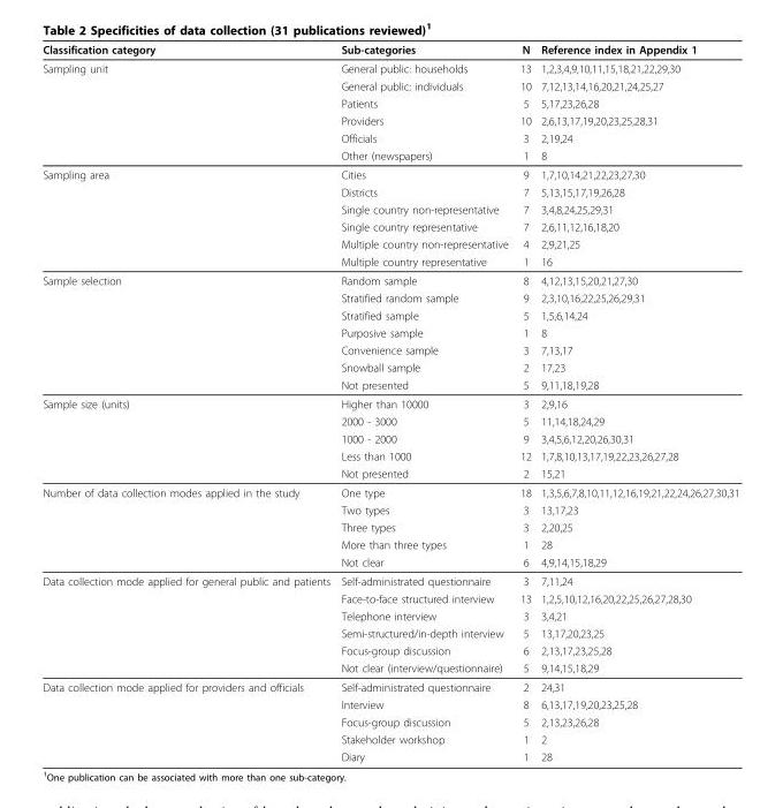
<table><thead><tr><td>Classification category</td><td>Sub-categories</td><td>N</td><td>Reference index in Appendix 1</td></tr></thead><tbody><tr><td rowspan="6">Sampling unit</td><td>General public: households</td><td>13</td><td>1,2,3,4,9,10,11,15,18,21,22,29,30</td></tr><tr><td>General public: individuals</td><td>10</td><td>7,12,13,14,16,20,21,24,25,27</td></tr><tr><td>Patients</td><td>5</td><td>5,17,23,26,28</td></tr><tr><td>Providers</td><td>10</td><td>2,6,13,17,19,20,23,25,28,31</td></tr><tr><td>Officials</td><td>3</td><td>2,19,24</td></tr><tr><td>Other (newspapers)</td><td>1</td><td>8</td></tr><tr><td rowspan="6">Sampling area</td><td>Cities</td><td>9</td><td>1,7,10,14,21,22,23,27,30</td></tr><tr><td>Districts</td><td>7</td><td>5,13,15,17,19,26,28</td></tr><tr><td>Single country non-representative</td><td>7</td><td>3,4,8,24,25,29,31</td></tr><tr><td>Single country representative</td><td>7</td><td>2,6,11,12,16,18,20</td></tr><tr><td>Multiple country non-representative</td><td>4</td><td>2,9,21,25</td></tr><tr><td>Multiple country representative</td><td>1</td><td>16</td></tr><tr><td rowspan="7">Sample selection</td><td>Random sample</td><td>8</td><td>4,12,13,15,20,21,27,30</td></tr><tr><td>Stratified random sample</td><td>9</td><td>2,3,10,16,22,25,26,29,31</td></tr><tr><td>Stratified sample</td><td>5</td><td>1,5,6,14,24</td></tr><tr><td>Purposive sample</td><td>1</td><td>8</td></tr><tr><td>Convenience sample</td><td>3</td><td>7,13,17</td></tr><tr><td>Snowball sample</td><td>2</td><td>17,23</td></tr><tr><td>Not presented</td><td>5</td><td>9,11,18,19,28</td></tr><tr><td rowspan="5">Sample size (units)</td><td>Higher than 10000</td><td>3</td><td>2,9,16</td></tr><tr><td>2000 - 3000</td><td>5</td><td>11,14,18,24,29</td></tr><tr><td>1000 - 2000</td><td>9</td><td>3,4,5,6,12,20,26,30,31</td></tr><tr><td>Less than 1000</td><td>12</td><td>1,7,8,10,13,17,19,22,23,26,27,28</td></tr><tr><td>Not presented</td><td>2</td><td>15,21</td></tr><tr><td rowspan="5">Number of data collection modes applied in the study</td><td>One type</td><td>18</td><td>1,3,5,6,7,8,10,11,12,16,19,21,22,24,26,27,30,31</td></tr><tr><td>Two types</td><td>3</td><td>13,17,23</td></tr><tr><td>Three types</td><td>3</td><td>2,20,25</td></tr><tr><td>More than three types</td><td>1</td><td>28</td></tr><tr><td>Not clear</td><td>6</td><td>4,9,14,15,18,29</td></tr><tr><td rowspan="6">Data collection mode applied for general public and patients</td><td>Self-administrated questionnaire</td><td>3</td><td>7,11,24</td></tr><tr><td>Face-to-face structured interview</td><td>13</td><td>1,2,5,10,12,16,20,22,25,26,27,28,30</td></tr><tr><td>Telephone interview</td><td>3</td><td>3,4,21</td></tr><tr><td>Semi-structured/in-depth interview</td><td>5</td><td>13,17,20,23,25</td></tr><tr><td>Focus-group discussion</td><td>6</td><td>2,13,17,23,25,28</td></tr><tr><td>Not clear (interview/questionnaire)</td><td>5</td><td>9,14,15,18,29</td></tr><tr><td rowspan="5">Data collection mode applied for providers and officials</td><td>Self-administrated questionnaire</td><td>2</td><td>24,31</td></tr><tr><td>Interview</td><td>8</td><td>6,13,17,19,20,23,25,28</td></tr><tr><td>Focus-group discussion</td><td>5</td><td>2,13,23,26,28</td></tr><tr><td>Stakeholder workshop</td><td>1</td><td>2</td></tr><tr><td>Diary</td><td>1</td><td>28</td></tr></tbody></table>